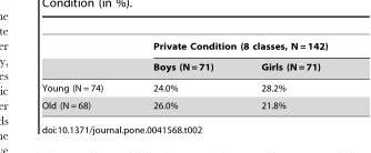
<table><thead><tr><td rowspan="2"></td><td colspan="2">Private Condition (8 classes, N = 142)</td></tr><tr><td>Boys (N = 71)</td><td>Girls (N = 71)</td></tr></thead><tbody><tr><td>Young (N = 74)</td><td>24.0%</td><td>28.2%</td></tr><tr><td>Old (N = 68)</td><td>26.0%</td><td>21.8%</td></tr></tbody></table>